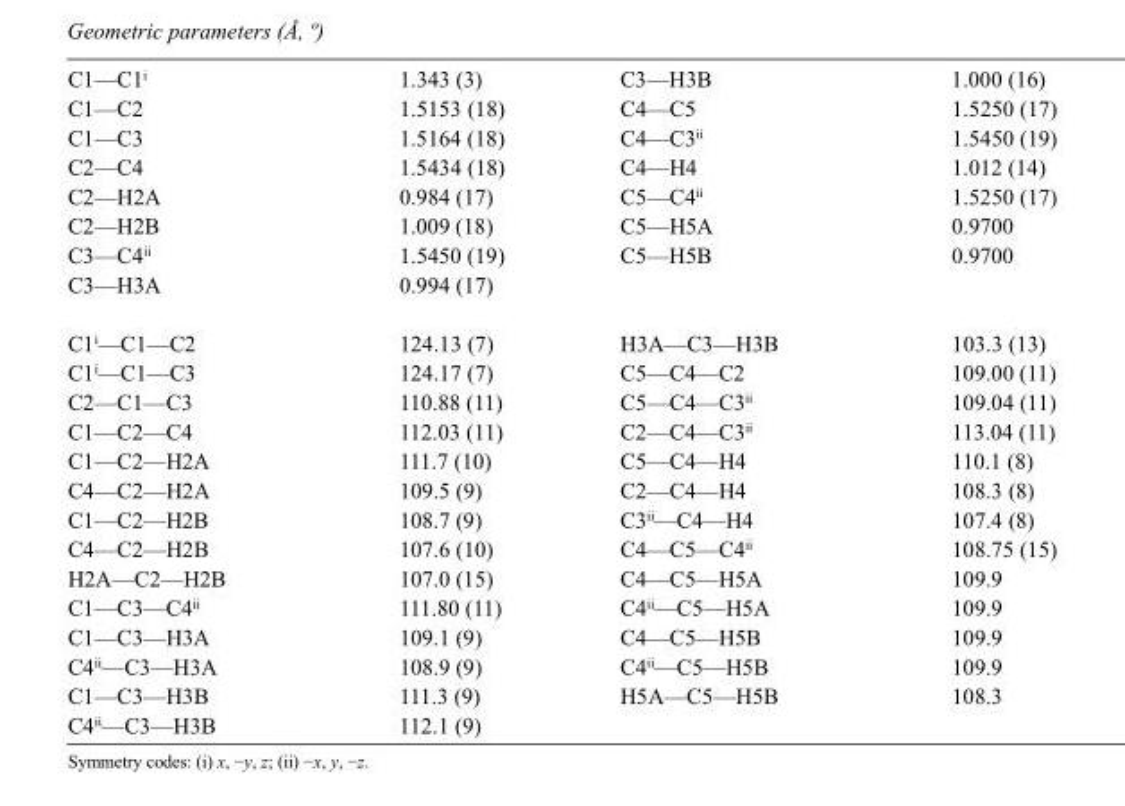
<table><tbody><tr><td>C1—C1<sup>i</sup></td><td>1.343 (3)</td><td>C3—H3B</td><td>1.000 (16)</td></tr><tr><td>C1—C2</td><td>1.5153 (18)</td><td>C4—C5</td><td>1.5250 (17)</td></tr><tr><td>C1—C3</td><td>1.5164 (18)</td><td>C4—C3<sup>ii</sup></td><td>1.5450 (19)</td></tr><tr><td>C2—C4</td><td>1.5434 (18)</td><td>C4—H4</td><td>1.012 (14)</td></tr><tr><td>C2—H2A</td><td>0.984 (17)</td><td>C5—C4<sup>ii</sup></td><td>1.5250 (17)</td></tr><tr><td>C2—H2B</td><td>1.009 (18)</td><td>C5—H5A</td><td>0.9700</td></tr><tr><td>C3—C4<sup>ii</sup></td><td>1.5450 (19)</td><td>C5—H5B</td><td>0.9700</td></tr><tr><td>C3—H3A</td><td>0.994 (17)</td><td></td><td></td></tr><tr><td>C1<sup>i</sup>—C1—C2</td><td>124.13 (7)</td><td>H3A—C3—H3B</td><td>103.3 (13)</td></tr><tr><td>C1<sup>i</sup>—C1—C3</td><td>124.17 (7)</td><td>C5—C4—C2</td><td>109.00 (11)</td></tr><tr><td>C2—C1—C3</td><td>110.88 (11)</td><td>C5—C4—C3<sup>ii</sup></td><td>109.04 (11)</td></tr><tr><td>C1—C2—C4</td><td>112.03 (11)</td><td>C2—C4—C3<sup>ii</sup></td><td>113.04 (11)</td></tr><tr><td>C1—C2—H2A</td><td>111.7 (10)</td><td>C5—C4—H4</td><td>110.1 (8)</td></tr><tr><td>C4—C2—H2A</td><td>109.5 (9)</td><td>C2—C4—H4</td><td>108.3 (8)</td></tr><tr><td>C1—C2—H2B</td><td>108.7 (9)</td><td>C3<sup>ii</sup>—C4—H4</td><td>107.4 (8)</td></tr><tr><td>C4—C2—H2B</td><td>107.6 (10)</td><td>C4—C5—C4<sup>ii</sup></td><td>108.75 (15)</td></tr><tr><td>H2A—C2—H2B</td><td>107.0 (15)</td><td>C4—C5—H5A</td><td>109.9</td></tr><tr><td>C1—C3—C4<sup>ii</sup></td><td>111.80 (11)</td><td>C4<sup>ii</sup>—C5—H5A</td><td>109.9</td></tr><tr><td>C1—C3—H3A</td><td>109.1 (9)</td><td>C4—C5—H5B</td><td>109.9</td></tr><tr><td>C4<sup>ii</sup>—C3—H3A</td><td>108.9 (9)</td><td>C4<sup>ii</sup>—C5—H5B</td><td>109.9</td></tr><tr><td>C1—C3—H3B</td><td>111.3 (9)</td><td>H5A—C5—H5B</td><td>108.3</td></tr><tr><td>C4<sup>ii</sup>—C3—H3B</td><td>112.1 (9)</td><td></td><td></td></tr></tbody></table>